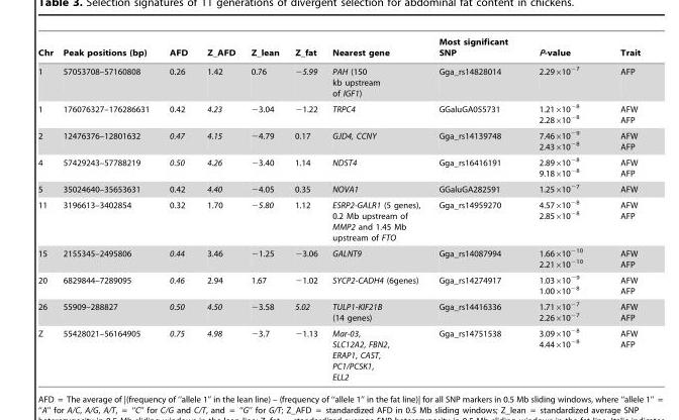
<table><thead><tr><td>Chr</td><td>Peak positions (bp)</td><td>AFD</td><td>Z_AFD</td><td>Z_lean</td><td>Z_fat</td><td>Nearest gene</td><td>Most significant SNP</td><td>P-value</td><td>Trait</td></tr></thead><tbody><tr><td>1</td><td>57053708–57160808</td><td>0.26</td><td>1.42</td><td>0.76</td><td>−5.99</td><td>PAH (150 kb upstream of IGF1)</td><td>Gga_rs14828014</td><td>2.29×10<sup>−7</sup></td><td>AFP</td></tr><tr><td>1</td><td>176076327–176286631</td><td>0.42</td><td>4.23</td><td>−3.04</td><td>−1.22</td><td>TRPC4</td><td>GGaluGA055731</td><td>1.21×10<sup>−8</sup> 2.28×10<sup>−8</sup></td><td>AFW AFP</td></tr><tr><td>2</td><td>12476376–12801632</td><td>0.47</td><td>4.15</td><td>−4.79</td><td>0.17</td><td>GJD4, CCNY</td><td>Gga_rs14139748</td><td>7.46×10<sup>−9</sup> 2.43×10<sup>−8</sup></td><td>AFW AFP</td></tr><tr><td>4</td><td>57429243–57788219</td><td>0.50</td><td>4.26</td><td>−3.40</td><td>1.14</td><td>NDST4</td><td>Gga_rs16416191</td><td>2.89×10<sup>−8</sup> 9.18×10<sup>−8</sup></td><td>AFW AFP</td></tr><tr><td>5</td><td>35024640–35653631</td><td>0.42</td><td>4.40</td><td>−4.05</td><td>0.35</td><td>NOVA1</td><td>GGaluGA282591</td><td>1.25×10<sup>−7</sup></td><td>AFW</td></tr><tr><td>11</td><td>3196613–3402854</td><td>0.32</td><td>1.70</td><td>−5.80</td><td>1.12</td><td>ESRP2-GALR1 (5 genes), 0.2 Mb upstream of MMP2 and 1.45 Mb upstream of FTO</td><td>Gga_rs14959270</td><td>4.57×10<sup>−8</sup> 2.85×10<sup>−8</sup></td><td>AFW AFP</td></tr><tr><td>15</td><td>2155345–2495806</td><td>0.44</td><td>3.46</td><td>−1.25</td><td>−3.06</td><td>GALNT9</td><td>Gga_rs14087994</td><td>1.66×10<sup>−10</sup> 2.21×10<sup>−10</sup></td><td>AFW AFP</td></tr><tr><td>20</td><td>6829844–7289095</td><td>0.46</td><td>2.94</td><td>1.67</td><td>−1.02</td><td>SYCP2-CADH4 (6genes)</td><td>Gga_rs14274917</td><td>1.03×10<sup>−9</sup> 1.00×10<sup>−8</sup></td><td>AFW AFP</td></tr><tr><td>26</td><td>55909–288827</td><td>0.50</td><td>4.50</td><td>−3.58</td><td>5.02</td><td>TULP1-KIF21B (14 genes)</td><td>Gga_rs14416336</td><td>1.71×10<sup>−7</sup> 2.26×10<sup>−7</sup></td><td>AFW AFP</td></tr><tr><td>Z</td><td>55428021–56164905</td><td>0.75</td><td>4.98</td><td>−3.7</td><td>−1.13</td><td>Mar-03, SLC12A2, FBN2, ERAP1, CAST, PC1/PCSK1, ELL2</td><td>Gga_rs14751538</td><td>3.09×10<sup>−8</sup> 4.44×10<sup>−8</sup></td><td>AFW AFP</td></tr></tbody></table>